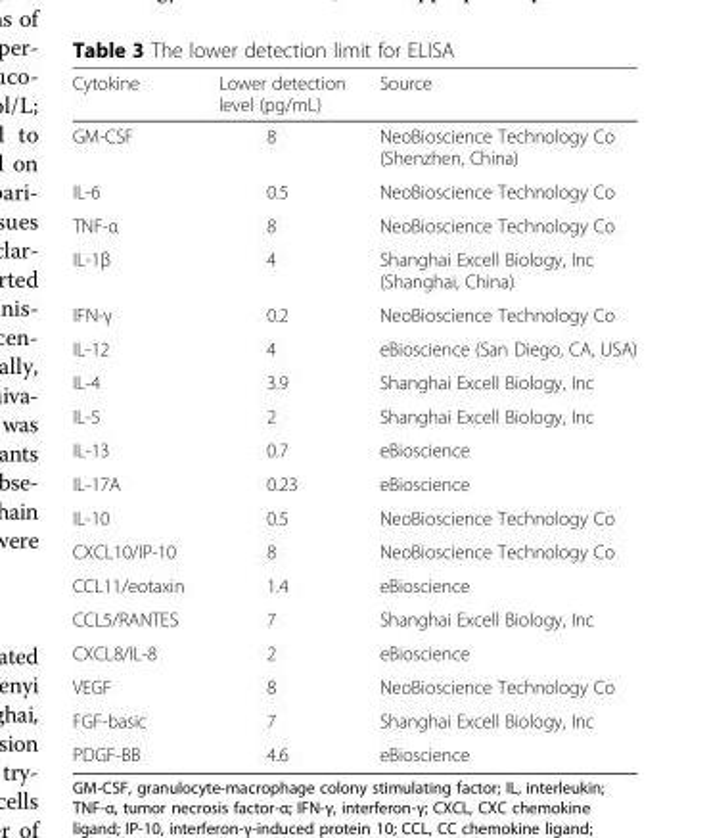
<table><thead><tr><td>Cytokine</td><td>Lower detection level (pg/mL)</td><td>Source</td></tr></thead><tbody><tr><td>GM-CSF</td><td>8</td><td>NeoBioscience Technology Co (Shenzhen, China)</td></tr><tr><td>IL-6</td><td>0.5</td><td>NeoBioscience Technology Co</td></tr><tr><td>TNF-α</td><td>8</td><td>NeoBioscience Technology Co</td></tr><tr><td>IL-1β</td><td>4</td><td>Shanghai Excell Biology, Inc (Shanghai, China)</td></tr><tr><td>IFN-γ</td><td>0.2</td><td>NeoBioscience Technology Co</td></tr><tr><td>IL-12</td><td>4</td><td>eBioscience (San Diego, CA, USA)</td></tr><tr><td>IL-4</td><td>3.9</td><td>Shanghai Excell Biology, Inc</td></tr><tr><td>IL-5</td><td>2</td><td>Shanghai Excell Biology, Inc</td></tr><tr><td>IL-13</td><td>0.7</td><td>eBioscience</td></tr><tr><td>IL-17A</td><td>0.23</td><td>eBioscience</td></tr><tr><td>IL-10</td><td>0.5</td><td>NeoBioscience Technology Co</td></tr><tr><td>CXCL10/IP-10</td><td>8</td><td>NeoBioscience Technology Co</td></tr><tr><td>CCL11/eotaxin</td><td>1.4</td><td>eBioscience</td></tr><tr><td>CCL5/RANTES</td><td>7</td><td>Shanghai Excell Biology, Inc</td></tr><tr><td>CXCL8/IL-8</td><td>2</td><td>eBioscience</td></tr><tr><td>VEGF</td><td>8</td><td>NeoBioscience Technology Co</td></tr><tr><td>FGF-basic</td><td>7</td><td>Shanghai Excell Biology, Inc</td></tr><tr><td>PDGF-BB</td><td>4.6</td><td>eBioscience</td></tr></tbody></table>